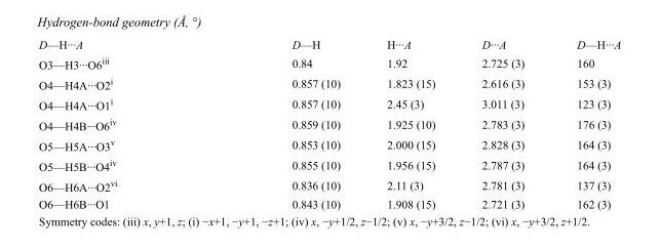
<table><tbody><tr><td>D—H···A</td><td>D—H</td><td>H···A</td><td>D···A</td><td>D—H···A</td></tr><tr><td>O3—H3···O6<sup>iii</sup></td><td>0.84</td><td>1.92</td><td>2.725 (3)</td><td>160</td></tr><tr><td>O4—H4A···O2<sup>i</sup></td><td>0.857 (10)</td><td>1.823 (15)</td><td>2.616 (3)</td><td>153 (3)</td></tr><tr><td>O4—H4A···O1<sup>i</sup></td><td>0.857 (10)</td><td>2.45 (3)</td><td>3.011 (3)</td><td>123 (3)</td></tr><tr><td>O4—H4B···O6<sup>iv</sup></td><td>0.859 (10)</td><td>1.925 (10)</td><td>2.783 (3)</td><td>176 (3)</td></tr><tr><td>O5—H5A···O3<sup>v</sup></td><td>0.853 (10)</td><td>2.000 (15)</td><td>2.828 (3)</td><td>164 (3)</td></tr><tr><td>O5—H5B···O4<sup>iv</sup></td><td>0.855 (10)</td><td>1.956 (15)</td><td>2.787 (3)</td><td>164 (3)</td></tr><tr><td>O6—H6A···O2<sup>vi</sup></td><td>0.836 (10)</td><td>2.11 (3)</td><td>2.781 (3)</td><td>137 (3)</td></tr><tr><td>O6—H6B···O1</td><td>0.843 (10)</td><td>1.908 (15)</td><td>2.721 (3)</td><td>162 (3)</td></tr></tbody></table>